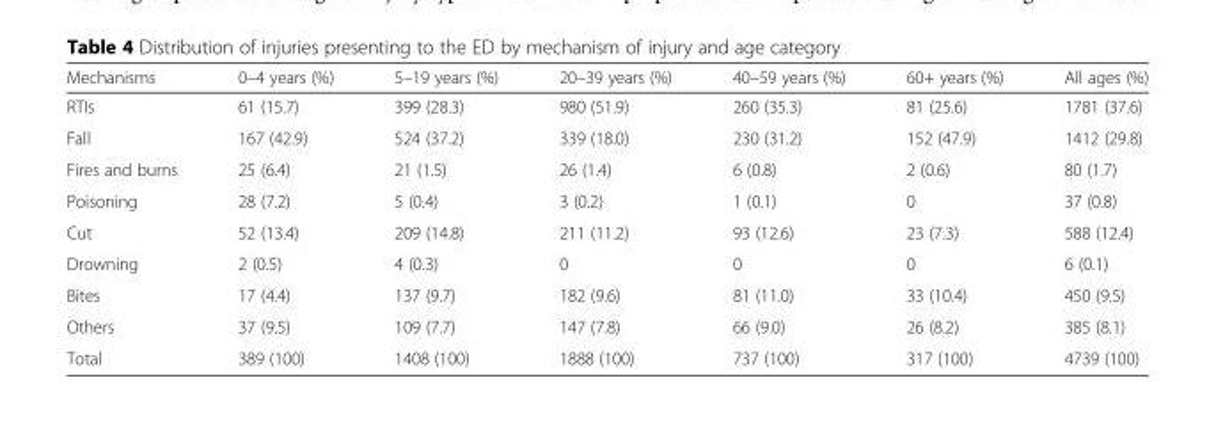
<table><thead><tr><td>Mechanisms</td><td>0–4 years (%)</td><td>5–19 years (%)</td><td>20–39 years (%)</td><td>40–59 years (%)</td><td>60+ years (%)</td><td>All ages (%)</td></tr></thead><tbody><tr><td>RTIs</td><td>61 (15.7)</td><td>399 (28.3)</td><td>980 (51.9)</td><td>260 (35.3)</td><td>81 (25.6)</td><td>1781 (37.6)</td></tr><tr><td>Fall</td><td>167 (42.9)</td><td>524 (37.2)</td><td>339 (18.0)</td><td>230 (31.2)</td><td>152 (47.9)</td><td>1412 (29.8)</td></tr><tr><td>Fires and burns</td><td>25 (6.4)</td><td>21 (1.5)</td><td>26 (1.4)</td><td>6 (0.8)</td><td>2 (0.6)</td><td>80 (1.7)</td></tr><tr><td>Poisoning</td><td>28 (7.2)</td><td>5 (0.4)</td><td>3 (0.2)</td><td>1 (0.1)</td><td>0</td><td>37 (0.8)</td></tr><tr><td>Cut</td><td>52 (13.4)</td><td>209 (14.8)</td><td>211 (11.2)</td><td>93 (12.6)</td><td>23 (7.3)</td><td>588 (12.4)</td></tr><tr><td>Drowning</td><td>2 (0.5)</td><td>4 (0.3)</td><td>0</td><td>0</td><td>0</td><td>6 (0.1)</td></tr><tr><td>Bites</td><td>17 (4.4)</td><td>137 (9.7)</td><td>182 (9.6)</td><td>81 (11.0)</td><td>33 (10.4)</td><td>450 (9.5)</td></tr><tr><td>Others</td><td>37 (9.5)</td><td>109 (7.7)</td><td>147 (7.8)</td><td>66 (9.0)</td><td>26 (8.2)</td><td>385 (8.1)</td></tr><tr><td>Total</td><td>389 (100)</td><td>1408 (100)</td><td>1888 (100)</td><td>737 (100)</td><td>317 (100)</td><td>4739 (100)</td></tr></tbody></table>